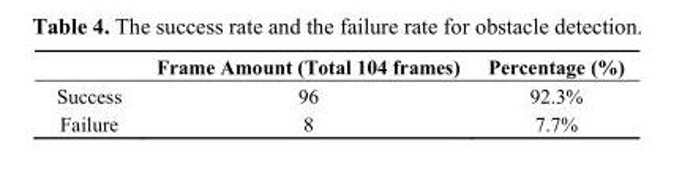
<table><thead><tr><td></td><td>Frame Amount (Total 104 frames)</td><td>Percentage (%)</td></tr></thead><tbody><tr><td>Success</td><td>96</td><td>92.3%</td></tr><tr><td>Failure</td><td>8</td><td>7.7%</td></tr></tbody></table>